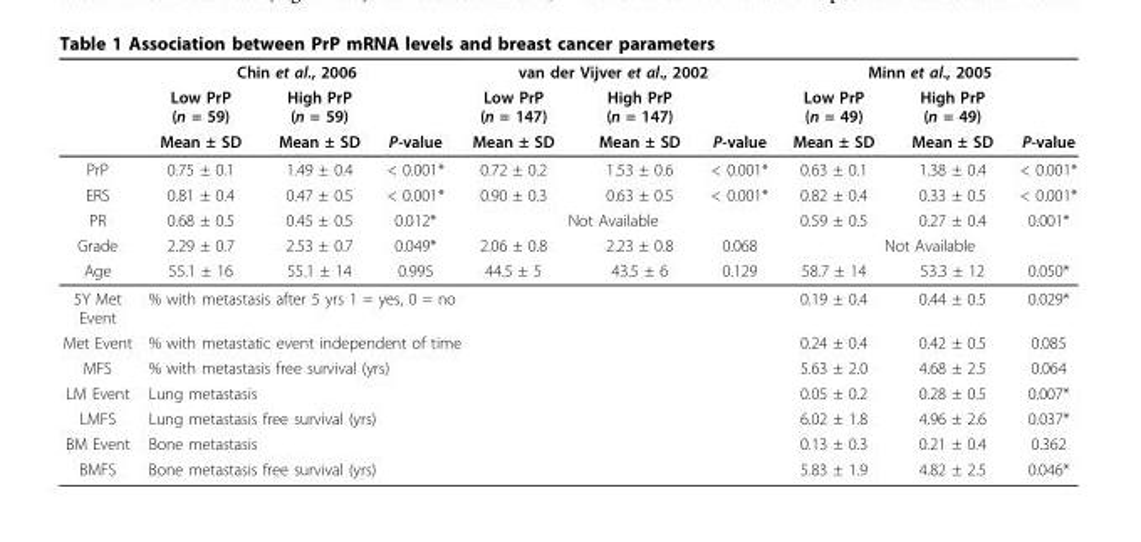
<table><thead><tr><td rowspan="3"></td><td colspan="3">Chin et al., 2006</td><td colspan="3">van der Vijver et al., 2002</td><td colspan="3">Minn et al., 2005</td></tr><tr><td rowspan="2">Low PrP (n = 59) Mean ± SD</td><td rowspan="2">High PrP (n = 59) Mean ± SD</td><td rowspan="2">P-value</td><td rowspan="2">Low PrP (n = 147) Mean ± SD</td><td rowspan="2">High PrP (n = 147) Mean ± SD</td><td rowspan="2">P-value</td><td rowspan="2">Low PrP (n = 49) Mean ± SD</td><td rowspan="2">High PrP (n = 49) Mean ± SD</td><td rowspan="2">P-value</td></tr><tr></tr></thead><tbody><tr><td>PrP</td><td>0.75 ± 0.1</td><td>1.49 ± 0.4</td><td>&lt; 0.001*</td><td>0.72 ± 0.2</td><td>1.53 ± 0.6</td><td>&lt; 0.001*</td><td>0.63 ± 0.1</td><td>1.38 ± 0.4</td><td>&lt; 0.001*</td></tr><tr><td>ERS</td><td>0.81 ± 0.4</td><td>0.47 ± 0.5</td><td>&lt; 0.001*</td><td>0.90 ± 0.3</td><td>0.63 ± 0.5</td><td>&lt; 0.001*</td><td>0.82 ± 0.4</td><td>0.33 ± 0.5</td><td>&lt; 0.001*</td></tr><tr><td>PR</td><td>0.68 ± 0.5</td><td>0.45 ± 0.5</td><td>0.012*</td><td colspan="3">Not Available</td><td>0.59 ± 0.5</td><td>0.27 ± 0.4</td><td>0.001*</td></tr><tr><td>Grade</td><td>2.29 ± 0.7</td><td>2.53 ± 0.7</td><td>0.049*</td><td>2.06 ± 0.8</td><td>2.23 ± 0.8</td><td>0.068</td><td colspan="3">Not Available</td></tr><tr><td>Age</td><td>55.1 ± 16</td><td>55.1 ± 14</td><td>0.995</td><td>44.5 ± 5</td><td>43.5 ± 6</td><td>0.129</td><td>58.7 ± 14</td><td>53.3 ± 12</td><td>0.050*</td></tr><tr><td>5Y Met Event</td><td colspan="6">% with metastasis after 5 yrs 1 = yes, 0 = no</td><td>0.19 ± 0.4</td><td>0.44 ± 0.5</td><td>0.029*</td></tr><tr><td>Met Event</td><td colspan="6">% with metastatic event independent of time</td><td>0.24 ± 0.4</td><td>0.42 ± 0.5</td><td>0.085</td></tr><tr><td>MFS</td><td colspan="6">% with metastasis free survival (yrs)</td><td>5.63 ± 2.0</td><td>4.68 ± 2.5</td><td>0.064</td></tr><tr><td>LM Event</td><td colspan="6">Lung metastasis</td><td>0.05 ± 0.2</td><td>0.28 ± 0.5</td><td>0.007*</td></tr><tr><td>LMFS</td><td colspan="6">Lung metastasis free survival (yrs)</td><td>6.02 ± 1.8</td><td>4.96 ± 2.6</td><td>0.037*</td></tr><tr><td>BM Event</td><td colspan="6">Bone metastasis</td><td>0.13 ± 0.3</td><td>0.21 ± 0.4</td><td>0.362</td></tr><tr><td>BMFS</td><td colspan="6">Bone metastasis free survival (yrs)</td><td>5.83 ± 1.9</td><td>4.82 ± 2.5</td><td>0.046*</td></tr></tbody></table>